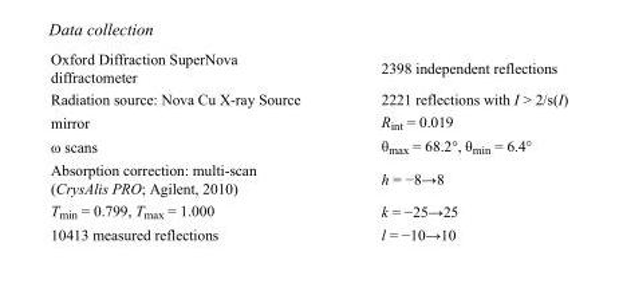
<table><tbody><tr><td>Oxford Diffraction SuperNova diffractometer</td><td>2398 independent reflections</td></tr><tr><td>Radiation source: Nova Cu X-ray Source</td><td>2221 reflections with I &gt; 2/s(I)</td></tr><tr><td>mirror</td><td>R<sub>int</sub> = 0.019</td></tr><tr><td>ω scans</td><td>θ<sub>max</sub> = 68.2°, θ<sub>min</sub> = 6.4°</td></tr><tr><td>Absorption correction: multi-scan (CrysAlis PRO; Agilent, 2010)</td><td>h = −8→8</td></tr><tr><td>T<sub>min</sub> = 0.799, T<sub>max</sub> = 1.000</td><td>k = −25→25</td></tr><tr><td>10413 measured reflections</td><td>l = −10→10</td></tr></tbody></table>